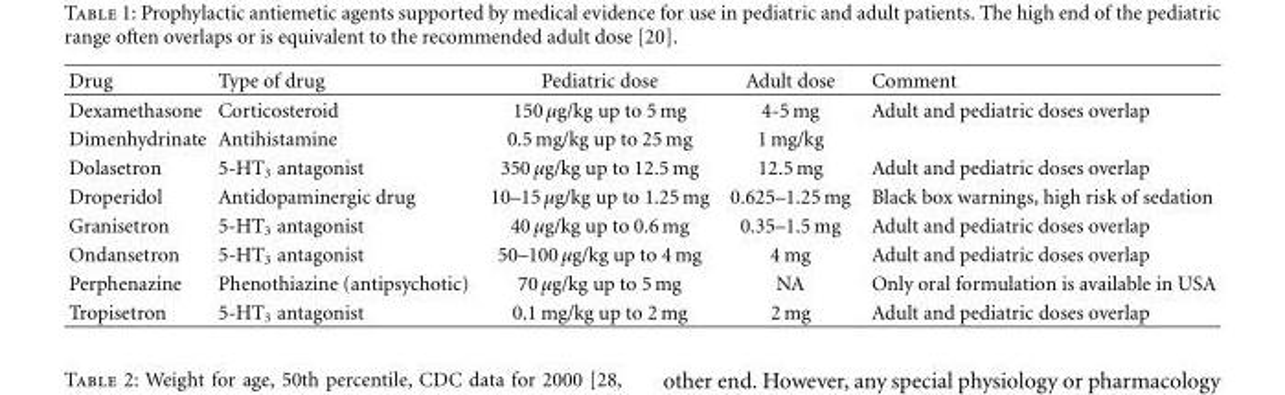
<table><thead><tr><td>Drug</td><td>Type of drug</td><td>Pediatric dose</td><td>Adult dose</td><td>Comment</td></tr></thead><tbody><tr><td>Dexamethasone</td><td>Corticosteroid</td><td>150 μg/kg up to 5 mg</td><td>4-5 mg</td><td>Adult and pediatric doses overlap</td></tr><tr><td>Dimenhydrinate</td><td>Antihistamine</td><td>0.5 mg/kg up to 25 mg</td><td>1 mg/kg</td><td></td></tr><tr><td>Dolasetron</td><td>5-HT<sub>3</sub> antagonist</td><td>350 μg/kg up to 12.5 mg</td><td>12.5 mg</td><td>Adult and pediatric doses overlap</td></tr><tr><td>Droperidol</td><td>Antidopaminergic drug</td><td>10–15 μg/kg up to 1.25 mg</td><td>0.625–1.25 mg</td><td>Black box warnings, high risk of sedation</td></tr><tr><td>Granisetron</td><td>5-HT<sub>3</sub> antagonist</td><td>40 μg/kg up to 0.6 mg</td><td>0.35–1.5 mg</td><td>Adult and pediatric doses overlap</td></tr><tr><td>Ondansetron</td><td>5-HT<sub>3</sub> antagonist</td><td>50–100 μg/kg up to 4 mg</td><td>4 mg</td><td>Adult and pediatric doses overlap</td></tr><tr><td>Perphenazine</td><td>Phenothiazine (antipsychotic)</td><td>70 μg/kg up to 5 mg</td><td>NA</td><td>Only oral formulation is available in USA</td></tr><tr><td>Tropisetron</td><td>5-HT<sub>3</sub> antagonist</td><td>0.1 mg/kg up to 2 mg</td><td>2 mg</td><td>Adult and pediatric doses overlap</td></tr></tbody></table>